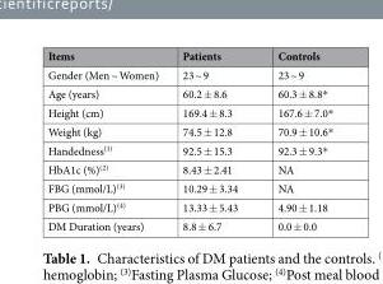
<table><thead><tr><td>Items</td><td>Patients</td><td>Controls</td></tr></thead><tbody><tr><td>Gender (Men ~ Women)</td><td>23 ~ 9</td><td>23 ~ 9</td></tr><tr><td>Age (years)</td><td>60.2 ± 8.6</td><td>60.3 ± 8.8*</td></tr><tr><td>Height (cm)</td><td>169.4 ± 8.3</td><td>167.6 ± 7.0*</td></tr><tr><td>Weight (kg)</td><td>74.5 ± 12.8</td><td>70.9 ± 10.6*</td></tr><tr><td>Handedness<sup>(1)</sup></td><td>92.5 ± 15.3</td><td>92.3 ± 9.3*</td></tr><tr><td>HbA1c (%)<sup>(2)</sup></td><td>8.43 ± 2.41</td><td>NA</td></tr><tr><td>FBG (mmol/L)<sup>(3)</sup></td><td>10.29 ± 3.34</td><td>NA</td></tr><tr><td>PBG (mmol/L)<sup>(4)</sup></td><td>13.33 ± 5.43</td><td>4.90 ± 1.18</td></tr><tr><td>DM Duration (years)</td><td>8.8 ± 6.7</td><td>0.0 ± 0.0</td></tr></tbody></table>